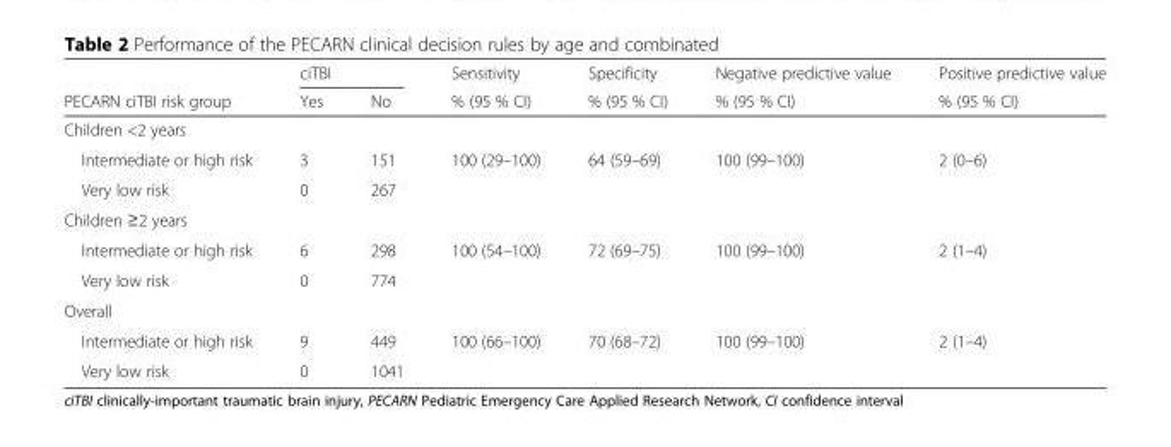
<table><thead><tr><td rowspan="2">PECARN ciTBI risk group</td><td colspan="2">ciTBI</td><td rowspan="2">Sensitivity % (95 % CI)</td><td rowspan="2">Specificity % (95 % CI)</td><td rowspan="2">Negative predictive value % (95 % CI)</td><td rowspan="2">Positive predictive value % (95 % CI)</td></tr><tr><td>Yes</td><td>No</td></tr></thead><tbody><tr><td colspan="7">Children &lt;2 years</td></tr><tr><td>Intermediate or high risk</td><td>3</td><td>151</td><td>100 (29–100)</td><td>64 (59–69)</td><td>100 (99–100)</td><td>2 (0–6)</td></tr><tr><td>Very low risk</td><td>0</td><td>267</td><td></td><td></td><td></td><td></td></tr><tr><td colspan="7">Children ≥2 years</td></tr><tr><td>Intermediate or high risk</td><td>6</td><td>298</td><td>100 (54–100)</td><td>72 (69–75)</td><td>100 (99–100)</td><td>2 (1–4)</td></tr><tr><td>Very low risk</td><td>0</td><td>774</td><td></td><td></td><td></td><td></td></tr><tr><td colspan="7">Overall</td></tr><tr><td>Intermediate or high risk</td><td>9</td><td>449</td><td>100 (66–100)</td><td>70 (68–72)</td><td>100 (99–100)</td><td>2 (1–4)</td></tr><tr><td>Very low risk</td><td>0</td><td>1041</td><td></td><td></td><td></td><td></td></tr></tbody></table>